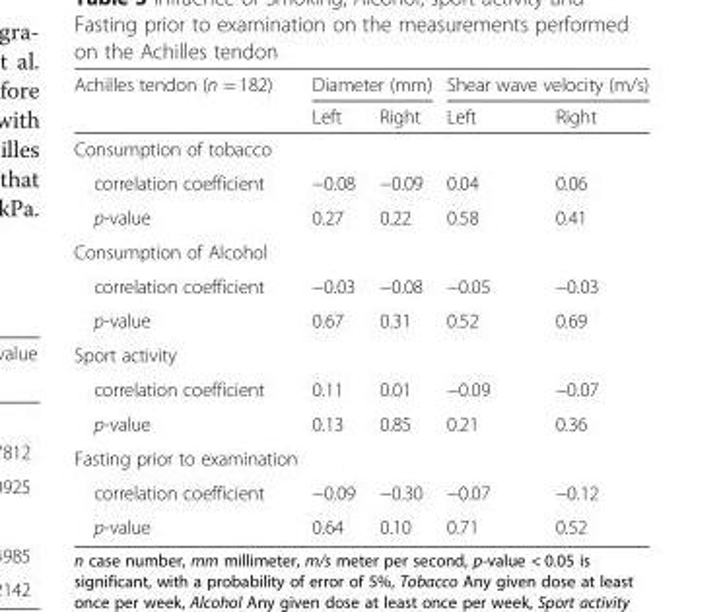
<table><thead><tr><td rowspan="2">Achilles tendon (n = 182)</td><td colspan="2">Diameter (mm)</td><td colspan="2">Shear wave velocity (m/s)</td></tr><tr><td>Left</td><td>Right</td><td>Left</td><td>Right</td></tr></thead><tbody><tr><td colspan="5">Consumption of tobacco</td></tr><tr><td>correlation coefficient</td><td>−0.08</td><td>−0.09</td><td>0.04</td><td>0.06</td></tr><tr><td>p-value</td><td>0.27</td><td>0.22</td><td>0.58</td><td>0.41</td></tr><tr><td colspan="5">Consumption of Alcohol</td></tr><tr><td>correlation coefficient</td><td>−0.03</td><td>−0.08</td><td>−0.05</td><td>−0.03</td></tr><tr><td>p-value</td><td>0.67</td><td>0.31</td><td>0.52</td><td>0.69</td></tr><tr><td colspan="5">Sport activity</td></tr><tr><td>correlation coefficient</td><td>0.11</td><td>0.01</td><td>−0.09</td><td>−0.07</td></tr><tr><td>p-value</td><td>0.13</td><td>0.85</td><td>0.21</td><td>0.36</td></tr><tr><td colspan="5">Fasting prior to examination</td></tr><tr><td>correlation coefficient</td><td>−0.09</td><td>−0.30</td><td>−0.07</td><td>−0.12</td></tr><tr><td>p-value</td><td>0.64</td><td>0.10</td><td>0.71</td><td>0.52</td></tr></tbody></table>